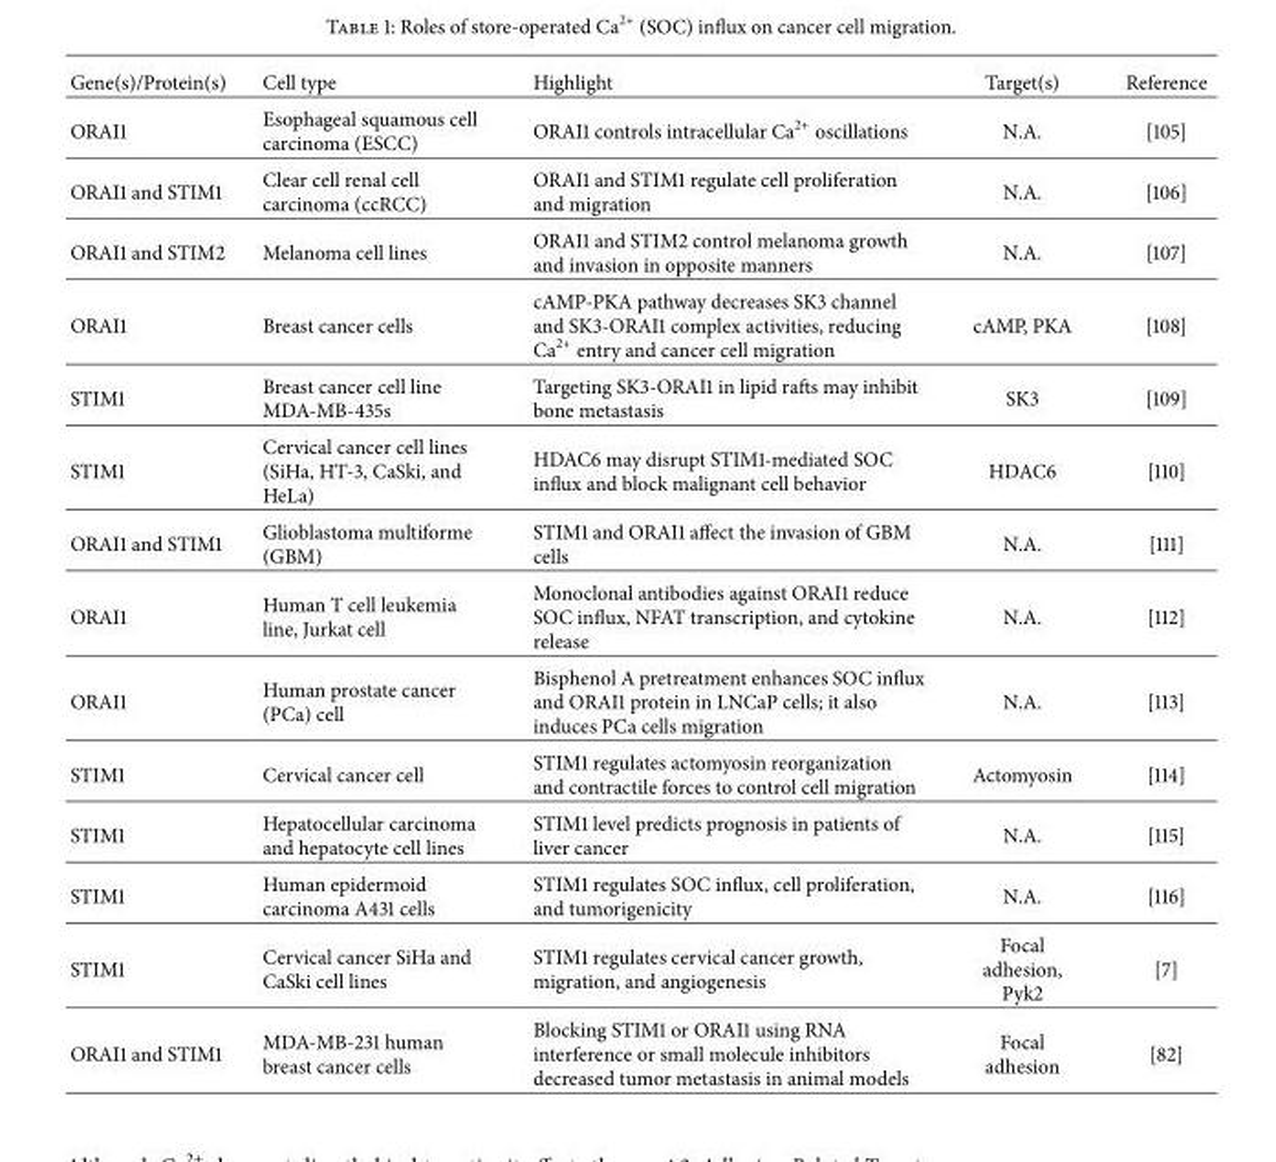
<table><thead><tr><td>Gene(s)/Protein(s)</td><td>Cell type</td><td>Highlight</td><td>Target(s)</td><td>Reference</td></tr></thead><tbody><tr><td>ORAI1</td><td>Esophageal squamous cell carcinoma (ESCC)</td><td>ORAI1 controls intracellular Ca<sup>2+</sup> oscillations</td><td>N.A.</td><td>[105]</td></tr><tr><td>ORAI1 and STIM1</td><td>Clear cell renal cell carcinoma (ccRCC)</td><td>ORAI1 and STIM1 regulate cell proliferation and migration</td><td>N.A.</td><td>[106]</td></tr><tr><td>ORAI1 and STIM2</td><td>Melanoma cell lines</td><td>ORAI1 and STIM2 control melanoma growth and invasion in opposite manners</td><td>N.A.</td><td>[107]</td></tr><tr><td>ORAI1</td><td>Breast cancer cells</td><td>cAMP-PKA pathway decreases SK3 channel and SK3-ORAI1 complex activities, reducing Ca<sup>2+</sup> entry and cancer cell migration</td><td>cAMP, PKA</td><td>[108]</td></tr><tr><td>STIM1</td><td>Breast cancer cell line MDA-MB-435s</td><td>Targeting SK3-ORAI1 in lipid rafts may inhibit bone metastasis</td><td>SK3</td><td>[109]</td></tr><tr><td>STIM1</td><td>Cervical cancer cell lines (SiHa, HT-3, CaSki, and HeLa)</td><td>HDAC6 may disrupt STIM1-mediated SOC influx and block malignant cell behavior</td><td>HDAC6</td><td>[110]</td></tr><tr><td>ORAI1 and STIM1</td><td>Glioblastoma multiforme (GBM)</td><td>STIM1 and ORAI1 affect the invasion of GBM cells</td><td>N.A.</td><td>[111]</td></tr><tr><td>ORAI1</td><td>Human T cell leukemia line, Jurkat cell</td><td>Monoclonal antibodies against ORAI1 reduce SOC influx, NFAT transcription, and cytokine release</td><td>N.A.</td><td>[112]</td></tr><tr><td>ORAI1</td><td>Human prostate cancer (PCa) cell</td><td>Bisphenol A pretreatment enhances SOC influx and ORAI1 protein in LNCaP cells; it also induces PCa cells migration</td><td>N.A.</td><td>[113]</td></tr><tr><td>STIM1</td><td>Cervical cancer cell</td><td>STIM1 regulates actomyosin reorganization and contractile forces to control cell migration</td><td>Actomyosin</td><td>[114]</td></tr><tr><td>STIM1</td><td>Hepatocellular carcinoma and hepatocyte cell lines</td><td>STIM1 level predicts prognosis in patients of liver cancer</td><td>N.A.</td><td>[115]</td></tr><tr><td>STIM1</td><td>Human epidermoid carcinoma A431 cells</td><td>STIM1 regulates SOC influx, cell proliferation, and tumorigenicity</td><td>N.A.</td><td>[116]</td></tr><tr><td>STIM1</td><td>Cervical cancer SiHa and CaSki cell lines</td><td>STIM1 regulates cervical cancer growth, migration, and angiogenesis</td><td>Focal adhesion, Pyk2</td><td>[7]</td></tr><tr><td>ORAI1 and STIM1</td><td>MDA-MB-231 human breast cancer cells</td><td>Blocking STIM1 or ORAI1 using RNA interference or small molecule inhibitors decreased tumor metastasis in animal models</td><td>Focal adhesion</td><td>[82]</td></tr></tbody></table>